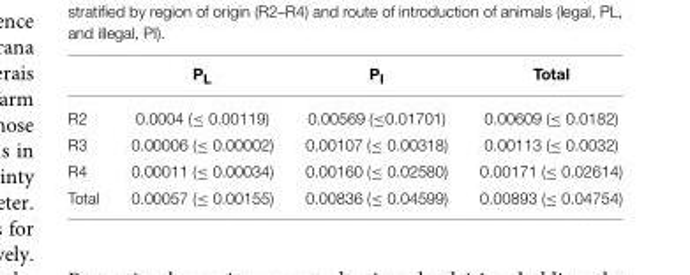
<table><thead><tr><td></td><td>P<sub>L</sub></td><td>P<sub>I</sub></td><td>Total</td></tr></thead><tbody><tr><td>R2</td><td>0.0004 (≤ 0.00119)</td><td>0.00569 (≤0.01701)</td><td>0.00609 (≤ 0.0182)</td></tr><tr><td>R3</td><td>0.00006 (≤ 0.00002)</td><td>0.00107 (≤ 0.00318)</td><td>0.00113 (≤ 0.0032)</td></tr><tr><td>R4</td><td>0.00011 (≤ 0.00034)</td><td>0.00160 (≤ 0.02580)</td><td>0.00171 (≤ 0.02614)</td></tr><tr><td>Total</td><td>0.00057 (≤ 0.00155)</td><td>0.00836 (≤ 0.04599)</td><td>0.00893 (≤ 0.04754)</td></tr></tbody></table>